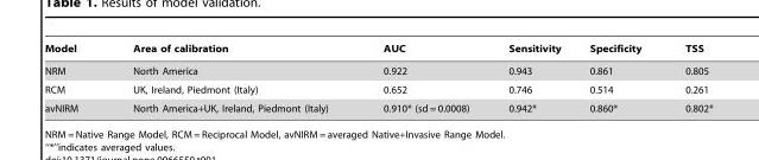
<table><thead><tr><td>Model</td><td>Area of calibration</td><td>AUC</td><td>Sensitivity</td><td>Specificity</td><td>TSS</td></tr></thead><tbody><tr><td>NRM</td><td>North America</td><td>0.922</td><td>0.943</td><td>0.861</td><td>0.805</td></tr><tr><td>RCM</td><td>UK, Ireland, Piedmont (Italy)</td><td>0.652</td><td>0.746</td><td>0.514</td><td>0.261</td></tr><tr><td>avNIRM</td><td>North America+UK, Ireland, Piedmont (Italy)</td><td>0.910* (sd = 0.0008)</td><td>0.942*</td><td>0.860*</td><td>0.802*</td></tr></tbody></table>